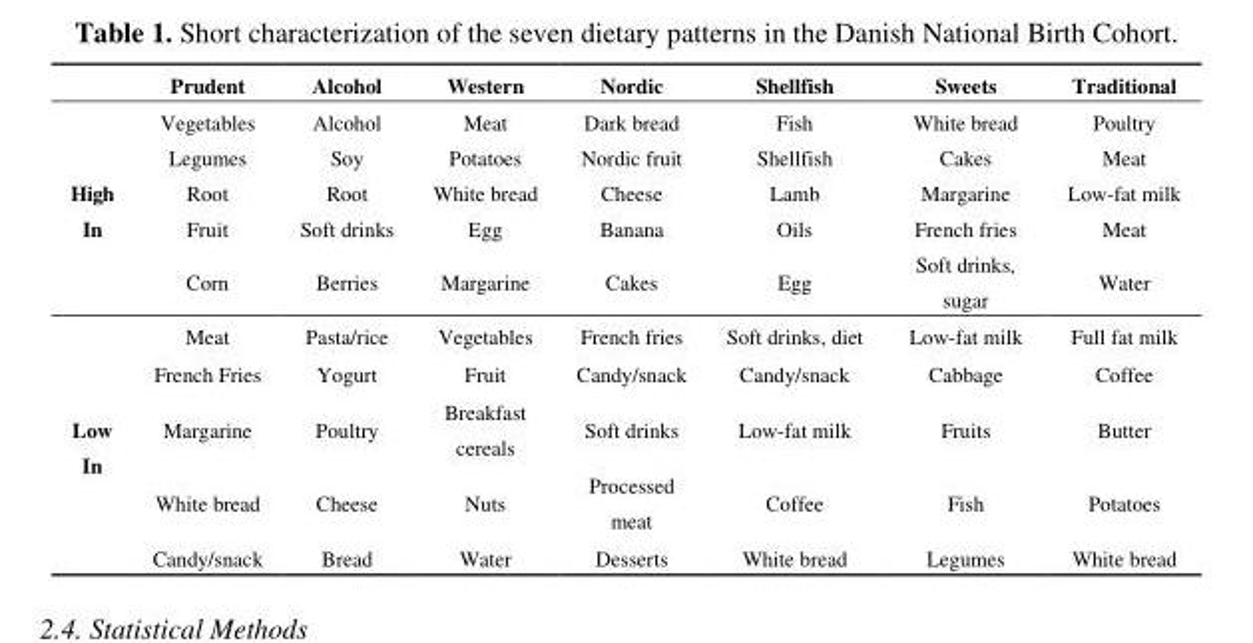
<table><thead><tr><td></td><td>Prudent</td><td>Alcohol</td><td>Western</td><td>Nordic</td><td>Shellfish</td><td>Sweets</td><td>Traditional</td></tr></thead><tbody><tr><td rowspan="5">High In</td><td>Vegetables</td><td>Alcohol</td><td>Meat</td><td>Dark bread</td><td>Fish</td><td>White bread</td><td>Poultry</td></tr><tr><td>Legumes</td><td>Soy</td><td>Potatoes</td><td>Nordic fruit</td><td>Shellfish</td><td>Cakes</td><td>Meat</td></tr><tr><td>Root</td><td>Root</td><td>White bread</td><td>Cheese</td><td>Lamb</td><td>Margarine</td><td>Low-fat milk</td></tr><tr><td>Fruit</td><td>Soft drinks</td><td>Egg</td><td>Banana</td><td>Oils</td><td>French fries</td><td>Meat</td></tr><tr><td>Corn</td><td>Berries</td><td>Margarine</td><td>Cakes</td><td>Egg</td><td>Soft drinks, sugar</td><td>Water</td></tr><tr><td rowspan="5">Low In</td><td>Meat</td><td>Pasta/rice</td><td>Vegetables</td><td>French fries</td><td>Soft drinks, diet</td><td>Low-fat milk</td><td>Full fat milk</td></tr><tr><td>French Fries</td><td>Yogurt</td><td>Fruit</td><td>Candy/snack</td><td>Candy/snack</td><td>Cabbage</td><td>Coffee</td></tr><tr><td>Margarine</td><td>Poultry</td><td>Breakfast cereals</td><td>Soft drinks</td><td>Low-fat milk</td><td>Fruits</td><td>Butter</td></tr><tr><td>White bread</td><td>Cheese</td><td>Nuts</td><td>Processed meat</td><td>Coffee</td><td>Fish</td><td>Potatoes</td></tr><tr><td>Candy/snack</td><td>Bread</td><td>Water</td><td>Desserts</td><td>White bread</td><td>Legumes</td><td>White bread</td></tr></tbody></table>